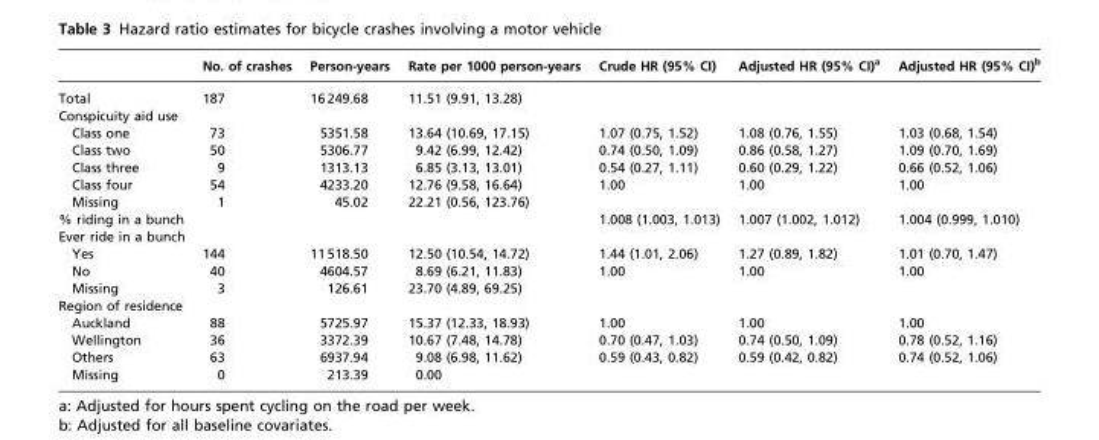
<table><thead><tr><td></td><td>No. of crashes</td><td>Person-years</td><td>Rate per 1000 person-years</td><td>Crude HR (95% CI)</td><td>Adjusted HR (95% CI)<sup>a</sup></td><td>Adjusted HR (95% CI)<sup>b</sup></td></tr></thead><tbody><tr><td>Total</td><td>187</td><td>16 249.68</td><td>11.51 (9.91, 13.28)</td><td></td><td></td><td></td></tr><tr><td colspan="7">Conspicuity aid use</td></tr><tr><td>Class one</td><td>73</td><td>5351.58</td><td>13.64 (10.69, 17.15)</td><td>1.07 (0.75, 1.52)</td><td>1.08 (0.76, 1.55)</td><td>1.03 (0.68, 1.54)</td></tr><tr><td>Class two</td><td>50</td><td>5306.77</td><td>9.42 (6.99, 12.42)</td><td>0.74 (0.50, 1.09)</td><td>0.86 (0.58, 1.27)</td><td>1.09 (0.70, 1.69)</td></tr><tr><td>Class three</td><td>9</td><td>1313.13</td><td>6.85 (3.13, 13.01)</td><td>0.54 (0.27, 1.11)</td><td>0.60 (0.29, 1.22)</td><td>0.66 (0.52, 1.06)</td></tr><tr><td>Class four</td><td>54</td><td>4233.20</td><td>12.76 (9.58, 16.64)</td><td>1.00</td><td>1.00</td><td>1.00</td></tr><tr><td>Missing</td><td>1</td><td>45.02</td><td>22.21 (0.56, 123.76)</td><td></td><td></td><td></td></tr><tr><td>% riding in a bunch</td><td></td><td></td><td></td><td>1.008 (1.003, 1.013)</td><td>1.007 (1.002, 1.012)</td><td>1.004 (0.999, 1.010)</td></tr><tr><td colspan="7">Ever ride in a bunch</td></tr><tr><td>Yes</td><td>144</td><td>11 518.50</td><td>12.50 (10.54, 14.72)</td><td>1.44 (1.01, 2.06)</td><td>1.27 (0.89, 1.82)</td><td>1.01 (0.70, 1.47)</td></tr><tr><td>No</td><td>40</td><td>4604.57</td><td>8.69 (6.21, 11.83)</td><td>1.00</td><td>1.00</td><td>1.00</td></tr><tr><td>Missing</td><td>3</td><td>126.61</td><td>23.70 (4.89, 69.25)</td><td></td><td></td><td></td></tr><tr><td colspan="7">Region of residence</td></tr><tr><td>Auckland</td><td>88</td><td>5725.97</td><td>15.37 (12.33, 18.93)</td><td>1.00</td><td>1.00</td><td>1.00</td></tr><tr><td>Wellington</td><td>36</td><td>3372.39</td><td>10.67 (7.48, 14.78)</td><td>0.70 (0.47, 1.03)</td><td>0.74 (0.50, 1.09)</td><td>0.78 (0.52, 1.16)</td></tr><tr><td>Others</td><td>63</td><td>6937.94</td><td>9.08 (6.98, 11.62)</td><td>0.59 (0.43, 0.82)</td><td>0.59 (0.42, 0.82)</td><td>0.74 (0.52, 1.06)</td></tr><tr><td>Missing</td><td>0</td><td>213.39</td><td>0.00</td><td></td><td></td><td></td></tr></tbody></table>